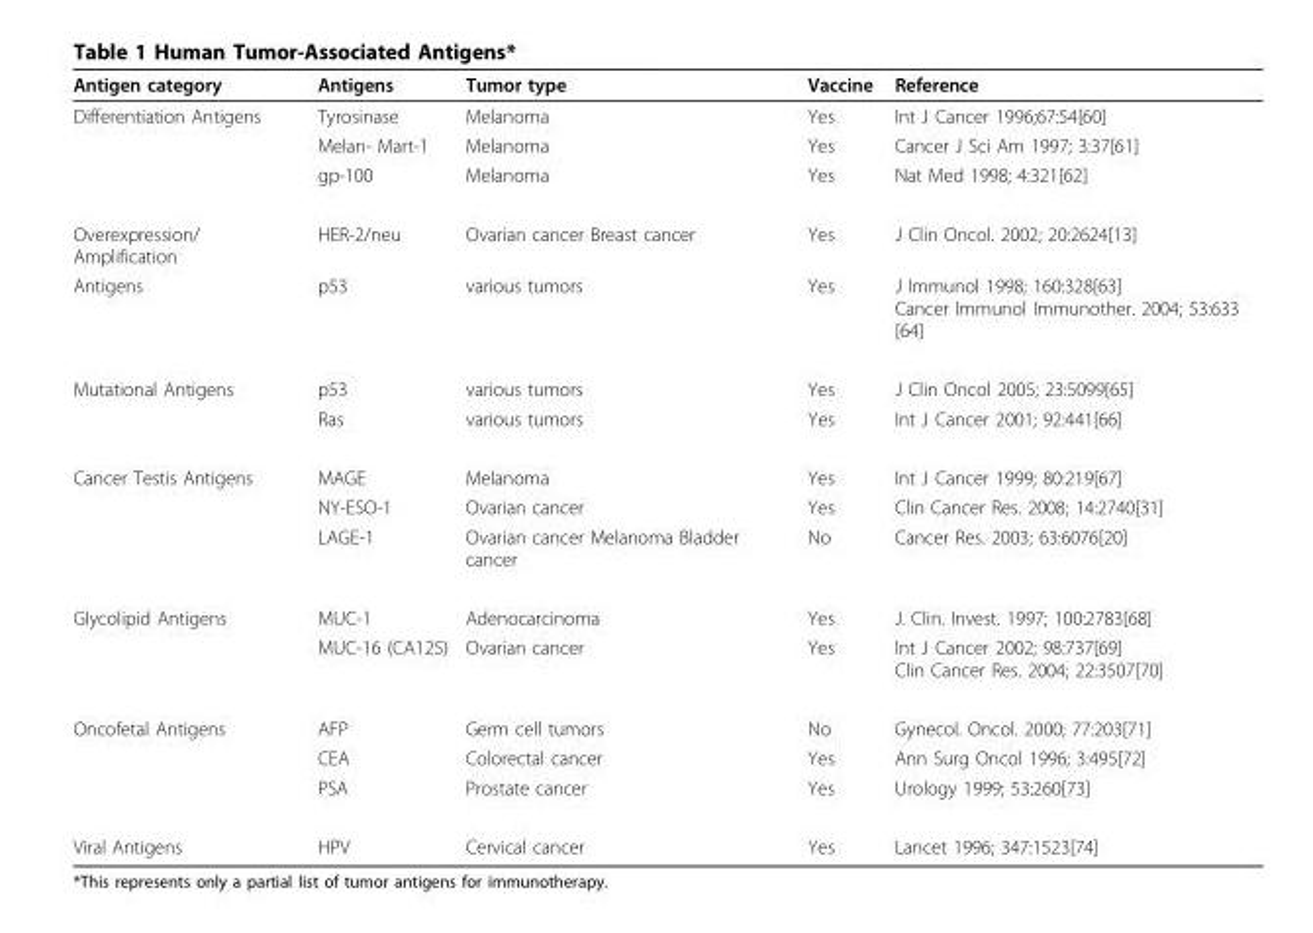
<table><thead><tr><td>Antigen category</td><td>Antigens</td><td>Tumor type</td><td>Vaccine</td><td>Reference</td></tr></thead><tbody><tr><td rowspan="3">Differentiation Antigens</td><td>Tyrosinase</td><td>Melanoma</td><td>Yes</td><td>Int J Cancer 1996;67:54[60]</td></tr><tr><td>Melan- Mart-1</td><td>Melanoma</td><td>Yes</td><td>Cancer J Sci Am 1997; 3:37[61]</td></tr><tr><td>gp-100</td><td>Melanoma</td><td>Yes</td><td>Nat Med 1998; 4:321[62]</td></tr><tr><td>Overexpression/ Amplification</td><td>HER-2/neu</td><td>Ovarian cancer Breast cancer</td><td>Yes</td><td>J Clin Oncol. 2002; 20:2624[13]</td></tr><tr><td>Antigens</td><td>p53</td><td>various tumors</td><td>Yes</td><td>J Immunol 1998; 160:328[63] Cancer Immunol Immunother. 2004; 53:633 [64]</td></tr><tr><td rowspan="2">Mutational Antigens</td><td>p53</td><td>various tumors</td><td>Yes</td><td>J Clin Oncol 2005; 23:5099[65]</td></tr><tr><td>Ras</td><td>various tumors</td><td>Yes</td><td>Int J Cancer 2001; 92:441[66]</td></tr><tr><td rowspan="3">Cancer Testis Antigens</td><td>MAGE</td><td>Melanoma</td><td>Yes</td><td>Int J Cancer 1999; 80:219[67]</td></tr><tr><td>NY-ESO-1</td><td>Ovarian cancer</td><td>Yes</td><td>Clin Cancer Res. 2008; 14:2740[31]</td></tr><tr><td>LAGE-1</td><td>Ovarian cancer Melanoma Bladder cancer</td><td>No</td><td>Cancer Res. 2003; 63:6076[20]</td></tr><tr><td rowspan="2">Glycolipid Antigens</td><td>MUC-1</td><td>Adenocarcinoma</td><td>Yes</td><td>J. Clin. Invest. 1997; 100:2783[68]</td></tr><tr><td>MUC-16 (CA125)</td><td>Ovarian cancer</td><td>Yes</td><td>Int J Cancer 2002; 98:737[69] Clin Cancer Res. 2004; 22:3507[70]</td></tr><tr><td rowspan="3">Oncofetal Antigens</td><td>AFP</td><td>Germ cell tumors</td><td>No</td><td>Gynecol. Oncol. 2000; 77:203[71]</td></tr><tr><td>CEA</td><td>Colorectal cancer</td><td>Yes</td><td>Ann Surg Oncol 1996; 3:495[72]</td></tr><tr><td>PSA</td><td>Prostate cancer</td><td>Yes</td><td>Urology 1999; 53:260[73]</td></tr><tr><td>Viral Antigens</td><td>HPV</td><td>Cervical cancer</td><td>Yes</td><td>Lancet 1996; 347:1523[74]</td></tr></tbody></table>